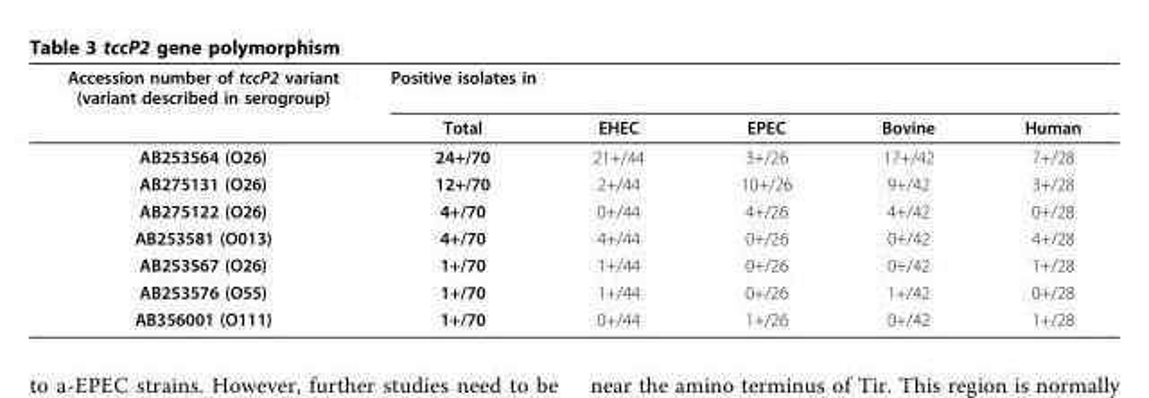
<table><thead><tr><td rowspan="2">Accession number of tccP2 variant (variant described in serogroup)</td><td colspan="2">Positive isolates in</td><td rowspan="2">EPEC</td><td rowspan="2">Bovine</td><td rowspan="2">Human</td></tr><tr><td>Total</td><td>EHEC</td></tr></thead><tbody><tr><td>AB253564 (O26)</td><td>24+/70</td><td>21+/44</td><td>3+/26</td><td>17+/42</td><td>7+/28</td></tr><tr><td>AB275131 (O26)</td><td>12+/70</td><td>2+/44</td><td>10+/26</td><td>9+/42</td><td>3+/28</td></tr><tr><td>AB275122 (O26)</td><td>4+/70</td><td>0+/44</td><td>4+/26</td><td>4+/42</td><td>0+/28</td></tr><tr><td>AB253581 (O013)</td><td>4+/70</td><td>4+/44</td><td>0+/26</td><td>0+/42</td><td>4+/28</td></tr><tr><td>AB253567 (O26)</td><td>1+/70</td><td>1+/44</td><td>0+/26</td><td>0+/42</td><td>1+/28</td></tr><tr><td>AB253576 (O55)</td><td>1+/70</td><td>1+/44</td><td>0+/26</td><td>1+/42</td><td>0+/28</td></tr><tr><td>AB356001 (O111)</td><td>1+/70</td><td>0+/44</td><td>1+/26</td><td>0+/42</td><td>1+/28</td></tr></tbody></table>